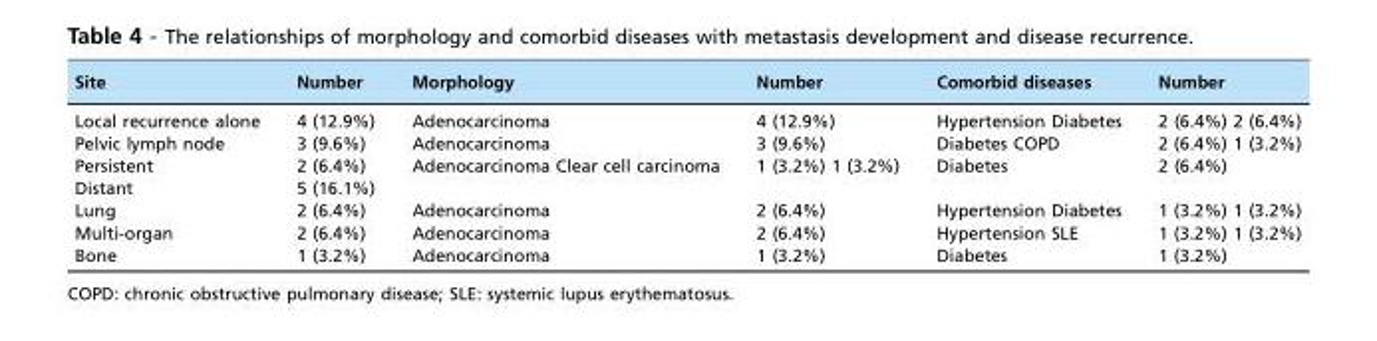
<table><thead><tr><td>Site</td><td>Number</td><td>Morphology</td><td>Number</td><td>Comorbid diseases</td><td>Number</td></tr></thead><tbody><tr><td>Local recurrence alone</td><td>4 (12.9%)</td><td>Adenocarcinoma</td><td>4 (12.9%)</td><td>Hypertension Diabetes</td><td>2 (6.4%) 2 (6.4%)</td></tr><tr><td>Pelvic lymph node</td><td>3 (9.6%)</td><td>Adenocarcinoma</td><td>3 (9.6%)</td><td>Diabetes COPD</td><td>2 (6.4%) 1 (3.2%)</td></tr><tr><td>Persistent</td><td>2 (6.4%)</td><td>Adenocarcinoma Clear cell carcinoma</td><td>1 (3.2%) 1 (3.2%)</td><td>Diabetes</td><td>2 (6.4%)</td></tr><tr><td>Distant</td><td>5 (16.1%)</td><td></td><td></td><td></td><td></td></tr><tr><td>Lung</td><td>2 (6.4%)</td><td>Adenocarcinoma</td><td>2 (6.4%)</td><td>Hypertension Diabetes</td><td>1 (3.2%) 1 (3.2%)</td></tr><tr><td>Multi-organ</td><td>2 (6.4%)</td><td>Adenocarcinoma</td><td>2 (6.4%)</td><td>Hypertension SLE</td><td>1 (3.2%) 1 (3.2%)</td></tr><tr><td>Bone</td><td>1 (3.2%)</td><td>Adenocarcinoma</td><td>1 (3.2%)</td><td>Diabetes</td><td>1 (3.2%)</td></tr></tbody></table>